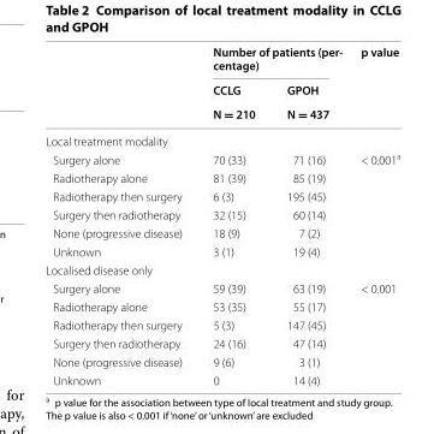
<table><thead><tr><td rowspan="3"></td><td colspan="2">Number of patients (per- centage)</td><td rowspan="3">p value</td></tr><tr><td rowspan="2">CCLG N = 210</td><td rowspan="2">GPOH N = 437</td></tr><tr></tr></thead><tbody><tr><td colspan="4">Local treatment modality</td></tr><tr><td>Surgery alone</td><td>70 (33)</td><td>71 (16)</td><td rowspan="6">&lt; 0.001<sup>a</sup></td></tr><tr><td>Radiotherapy alone</td><td>81 (39)</td><td>85 (19)</td></tr><tr><td>Radiotherapy then surgery</td><td>6 (3)</td><td>195 (45)</td></tr><tr><td>Surgery then radiotherapy</td><td>32 (15)</td><td>60 (14)</td></tr><tr><td>None (progressive disease)</td><td>18 (9)</td><td>7 (2)</td></tr><tr><td>Unknown</td><td>3 (1)</td><td>19 (4)</td></tr><tr><td colspan="4">Localised disease only</td></tr><tr><td>Surgery alone</td><td>59 (39)</td><td>63 (19)</td><td rowspan="6">&lt; 0.001</td></tr><tr><td>Radiotherapy alone</td><td>53 (35)</td><td>55 (17)</td></tr><tr><td>Radiotherapy then surgery</td><td>5 (3)</td><td>147 (45)</td></tr><tr><td>Surgery then radiotherapy</td><td>24 (16)</td><td>47 (14)</td></tr><tr><td>None (progressive disease)</td><td>9 (6)</td><td>3 (1)</td></tr><tr><td>Unknown</td><td>0</td><td>14 (4)</td></tr></tbody></table>